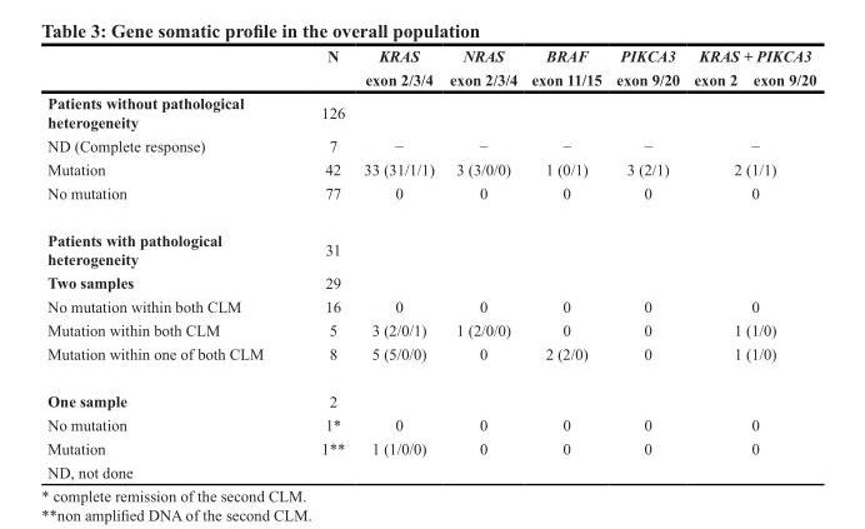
<table><thead><tr><td rowspan="2"></td><td rowspan="2">N</td><td rowspan="2">KRAS exon 2/3/4</td><td rowspan="2">NRAS exon 2/3/4</td><td rowspan="2">BRAF exon 11/15</td><td rowspan="2">PIKCA3 exon 9/20</td><td colspan="2">KRAS + PIKCA3</td></tr><tr><td>exon 2</td><td>exon 9/20</td></tr></thead><tbody><tr><td>Patients without pathological heterogeneity</td><td>126</td><td></td><td></td><td></td><td></td><td colspan="2"></td></tr><tr><td>ND (Complete response)</td><td>7</td><td>−</td><td>−</td><td>−</td><td>−</td><td colspan="2">−</td></tr><tr><td>Mutation</td><td>42</td><td>33 (31/1/1)</td><td>3 (3/0/0)</td><td>1 (0/1)</td><td>3 (2/1)</td><td colspan="2">2 (1/1)</td></tr><tr><td>No mutation</td><td>77</td><td>0</td><td>0</td><td>0</td><td>0</td><td colspan="2">0</td></tr><tr><td>Patients with pathological heterogeneity</td><td>31</td><td></td><td></td><td></td><td></td><td colspan="2"></td></tr><tr><td>Two samples</td><td>29</td><td></td><td></td><td></td><td></td><td colspan="2"></td></tr><tr><td>No mutation within both CLM</td><td>16</td><td>0</td><td>0</td><td>0</td><td>0</td><td colspan="2">0</td></tr><tr><td>Mutation within both CLM</td><td>5</td><td>3 (2/0/1)</td><td>1 (2/0/0)</td><td>0</td><td>0</td><td colspan="2">1 (1/0)</td></tr><tr><td>Mutation within one of both CLM</td><td>8</td><td>5 (5/0/0)</td><td>0</td><td>2 (2/0)</td><td>0</td><td colspan="2">1 (1/0)</td></tr><tr><td>One sample</td><td>2</td><td></td><td></td><td></td><td></td><td colspan="2"></td></tr><tr><td>No mutation</td><td>1*</td><td>0</td><td>0</td><td>0</td><td>0</td><td colspan="2">0</td></tr><tr><td>Mutation</td><td>1**</td><td>1 (1/0/0)</td><td>0</td><td>0</td><td>0</td><td colspan="2">0</td></tr><tr><td>ND, not done</td><td></td><td></td><td></td><td></td><td></td><td colspan="2"></td></tr></tbody></table>